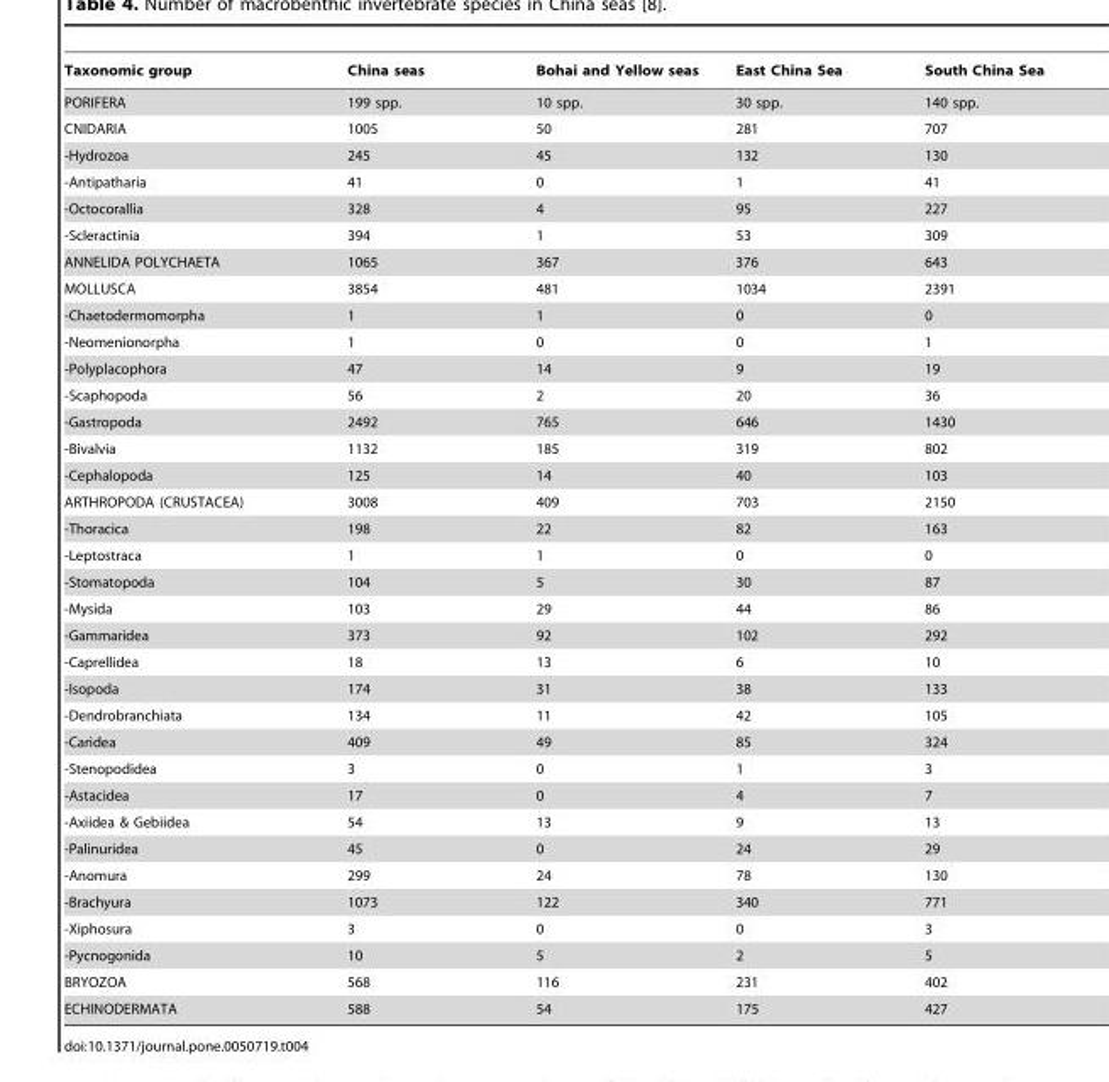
<table><thead><tr><td>Taxonomic group</td><td>China seas</td><td>Bohai and Yellow seas</td><td>East China Sea</td><td>South China Sea</td></tr></thead><tbody><tr><td>PORIFERA</td><td>199 spp.</td><td>10 spp.</td><td>30 spp.</td><td>140 spp.</td></tr><tr><td>CNIDARIA</td><td>1005</td><td>50</td><td>281</td><td>707</td></tr><tr><td>-Hydrozoa</td><td>245</td><td>45</td><td>132</td><td>130</td></tr><tr><td>-Antipatharia</td><td>41</td><td>0</td><td>1</td><td>41</td></tr><tr><td>-Octocorallia</td><td>328</td><td>4</td><td>95</td><td>227</td></tr><tr><td>-Scleractinia</td><td>394</td><td>1</td><td>53</td><td>309</td></tr><tr><td>ANNELIDA POLYCHAETA</td><td>1065</td><td>367</td><td>376</td><td>643</td></tr><tr><td>MOLLUSCA</td><td>3854</td><td>481</td><td>1034</td><td>2391</td></tr><tr><td>-Chaetodermomorpha</td><td>1</td><td>1</td><td>0</td><td>0</td></tr><tr><td>-Neomenionorpha</td><td>1</td><td>0</td><td>0</td><td>1</td></tr><tr><td>-Polyplacophora</td><td>47</td><td>14</td><td>9</td><td>19</td></tr><tr><td>-Scaphopoda</td><td>56</td><td>2</td><td>20</td><td>36</td></tr><tr><td>-Gastropoda</td><td>2492</td><td>765</td><td>646</td><td>1430</td></tr><tr><td>-Bivalvia</td><td>1132</td><td>185</td><td>319</td><td>802</td></tr><tr><td>-Cephalopoda</td><td>125</td><td>14</td><td>40</td><td>103</td></tr><tr><td>ARTHROPODA (CRUSTACEA)</td><td>3008</td><td>409</td><td>703</td><td>2150</td></tr><tr><td>-Thoracica</td><td>198</td><td>22</td><td>82</td><td>163</td></tr><tr><td>-Leptostraca</td><td>1</td><td>1</td><td>0</td><td>0</td></tr><tr><td>-Stomatopoda</td><td>104</td><td>5</td><td>30</td><td>87</td></tr><tr><td>-Mysida</td><td>103</td><td>29</td><td>44</td><td>86</td></tr><tr><td>-Gammaridea</td><td>373</td><td>92</td><td>102</td><td>292</td></tr><tr><td>-Caprellidea</td><td>18</td><td>13</td><td>6</td><td>10</td></tr><tr><td>-Isopoda</td><td>174</td><td>31</td><td>38</td><td>133</td></tr><tr><td>-Dendrobranchiata</td><td>134</td><td>11</td><td>42</td><td>105</td></tr><tr><td>-Caridea</td><td>409</td><td>49</td><td>85</td><td>324</td></tr><tr><td>-Stenopodidea</td><td>3</td><td>0</td><td>1</td><td>3</td></tr><tr><td>-Astacidea</td><td>17</td><td>0</td><td>4</td><td>7</td></tr><tr><td>-Axiidea &amp; Gebiidea</td><td>54</td><td>13</td><td>9</td><td>13</td></tr><tr><td>-Palinuridea</td><td>45</td><td>0</td><td>24</td><td>29</td></tr><tr><td>-Anomura</td><td>299</td><td>24</td><td>78</td><td>130</td></tr><tr><td>-Brachyura</td><td>1073</td><td>122</td><td>340</td><td>771</td></tr><tr><td>-Xiphosura</td><td>3</td><td>0</td><td>0</td><td>3</td></tr><tr><td>-Pycnogonida</td><td>10</td><td>5</td><td>2</td><td>5</td></tr><tr><td>BRYOZOA</td><td>568</td><td>116</td><td>231</td><td>402</td></tr><tr><td>ECHINODERMATA</td><td>588</td><td>54</td><td>175</td><td>427</td></tr></tbody></table>